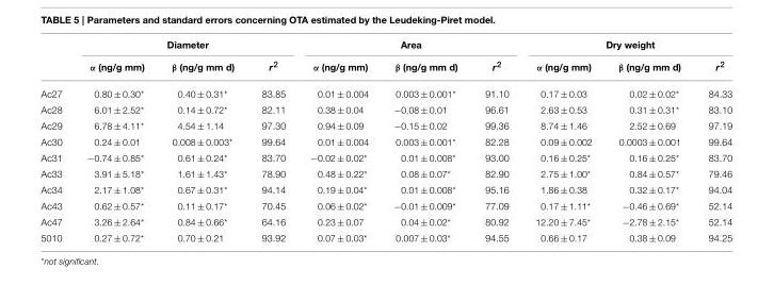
<table><thead><tr><td rowspan="2"></td><td colspan="3">Diameter</td><td colspan="3">Area</td><td colspan="3">Dry weight</td></tr><tr><td>α (ng/g mm)</td><td>β (ng/g mm d)</td><td>r<sup>2</sup></td><td>α (ng/g mm)</td><td>β (ng/g mm d)</td><td>r<sup>2</sup></td><td>α (ng/g mm)</td><td>β (ng/g mm d)</td><td>r<sup>2</sup></td></tr></thead><tbody><tr><td>Ac27</td><td>0.80 ± 0.30*</td><td>0.40 ± 0.31*</td><td>83.85</td><td>0.01 ± 0.004</td><td>0.003 ± 0.001*</td><td>91.10</td><td>0.17 ± 0.03</td><td>0.02 ± 0.02*</td><td>84.33</td></tr><tr><td>Ac28</td><td>6.01 ± 2.52*</td><td>0.14 ± 0.72*</td><td>82.11</td><td>0.38 ± 0.04</td><td>−0.08 ± 0.01</td><td>96.61</td><td>2.63 ± 0.53</td><td>0.31 ± 0.31*</td><td>83.10</td></tr><tr><td>Ac29</td><td>6.78 ± 4.11*</td><td>4.54 ± 1.14</td><td>97.30</td><td>0.94 ± 0.09</td><td>−0.15 ± 0.02</td><td>99.36</td><td>8.74 ± 1.46</td><td>2.52 ± 0.69</td><td>97.19</td></tr><tr><td>Ac30</td><td>0.24 ± 0.01</td><td>0.008 ± 0.003*</td><td>99.64</td><td>0.01 ± 0.004</td><td>0.003 ± 0.001*</td><td>82.28</td><td>0.09 ± 0.002</td><td>0.0003 ± 0.001</td><td>99.64</td></tr><tr><td>Ac31</td><td>−0.74 ± 0.85*</td><td>0.61 ± 0.24*</td><td>83.70</td><td>−0.02 ± 0.02*</td><td>0.01 ± 0.008*</td><td>93.00</td><td>0.16 ± 0.25*</td><td>0.16 ± 0.25*</td><td>83.70</td></tr><tr><td>Ac33</td><td>3.91 ± 5.18*</td><td>1.61 ± 1.43*</td><td>78.90</td><td>0.48 ± 0.22*</td><td>0.08 ± 0.07*</td><td>82.90</td><td>2.75 ± 1.00*</td><td>0.84 ± 0.57*</td><td>79.46</td></tr><tr><td>Ac34</td><td>2.17 ± 1.08*</td><td>0.67 ± 0.31*</td><td>94.14</td><td>0.19 ± 0.04*</td><td>0.01 ± 0.008*</td><td>95.16</td><td>1.86 ± 0.38</td><td>0.32 ± 0.17*</td><td>94.04</td></tr><tr><td>Ac43</td><td>0.62 ± 0.57*</td><td>0.11 ± 0.17*</td><td>70.45</td><td>0.06 ± 0.02*</td><td>−0.01 ± 0.009*</td><td>77.09</td><td>0.17 ± 1.11*</td><td>−0.46 ± 0.69*</td><td>52.14</td></tr><tr><td>Ac47</td><td>3.26 ± 2.64*</td><td>0.84 ± 0.66*</td><td>64.16</td><td>0.23 ± 0.07</td><td>0.04 ± 0.02*</td><td>80.92</td><td>12.20 ± 7.45*</td><td>−2.78 ± 2.15*</td><td>52.14</td></tr><tr><td>5010</td><td>0.27 ± 0.72*</td><td>0.70 ± 0.21</td><td>93.92</td><td>0.07 ± 0.03*</td><td>0.007 ± 0.03*</td><td>94.55</td><td>0.66 ± 0.17</td><td>0.38 ± 0.09</td><td>94.25</td></tr></tbody></table>